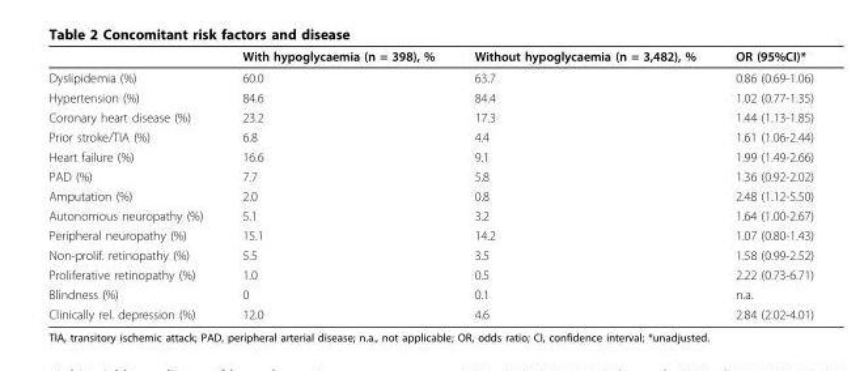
<table><thead><tr><td></td><td>With hypoglycaemia (n = 398), %</td><td>Without hypoglycaemia (n = 3,482), %</td><td>OR (95%CI)*</td></tr></thead><tbody><tr><td>Dyslipidemia (%)</td><td>60.0</td><td>63.7</td><td>0.86 (0.69-1.06)</td></tr><tr><td>Hypertension (%)</td><td>84.6</td><td>84.4</td><td>1.02 (0.77-1.35)</td></tr><tr><td>Coronary heart disease (%)</td><td>23.2</td><td>17.3</td><td>1.44 (1.13-1.85)</td></tr><tr><td>Prior stroke/TIA (%)</td><td>6.8</td><td>4.4</td><td>1.61 (1.06-2.44)</td></tr><tr><td>Heart failure (%)</td><td>16.6</td><td>9.1</td><td>1.99 (1.49-2.66)</td></tr><tr><td>PAD (%)</td><td>7.7</td><td>5.8</td><td>1.36 (0.92-2.02)</td></tr><tr><td>Amputation (%)</td><td>2.0</td><td>0.8</td><td>2.48 (1.12-5.50)</td></tr><tr><td>Autonomous neuropathy (%)</td><td>5.1</td><td>3.2</td><td>1.64 (1.00-2.67)</td></tr><tr><td>Peripheral neuropathy (%)</td><td>15.1</td><td>14.2</td><td>1.07 (0.80-1.43)</td></tr><tr><td>Non-prolif. retinopathy (%)</td><td>5.5</td><td>3.5</td><td>1.58 (0.99-2.52)</td></tr><tr><td>Proliferative retinopathy (%)</td><td>1.0</td><td>0.5</td><td>2.22 (0.73-6.71)</td></tr><tr><td>Blindness (%)</td><td>0</td><td>0.1</td><td>n.a.</td></tr><tr><td>Clinically rel. depression (%)</td><td>12.0</td><td>4.6</td><td>2.84 (2.02-4.01)</td></tr></tbody></table>